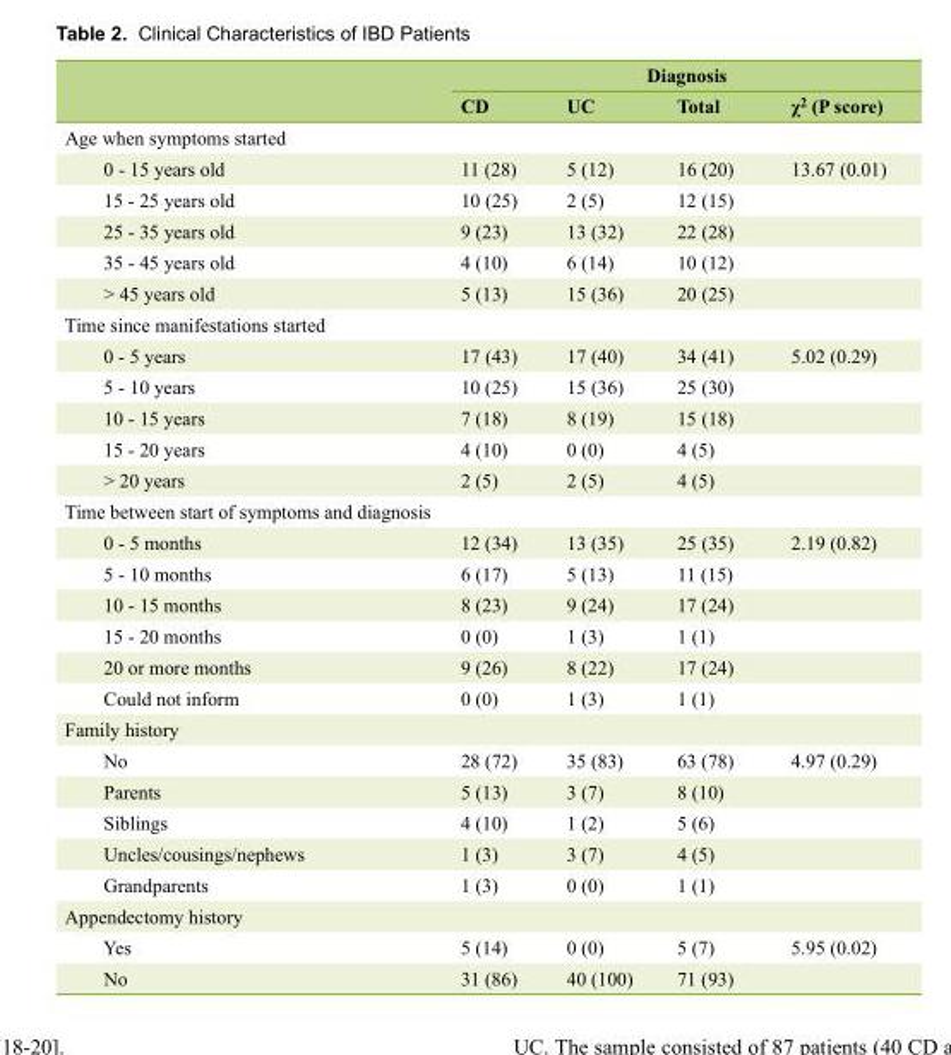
<table><thead><tr><td rowspan="2"></td><td colspan="4">Diagnosis</td></tr><tr><td>CD</td><td>UC</td><td>Total</td><td>χ<sup>2</sup> (P score)</td></tr></thead><tbody><tr><td colspan="5">Age when symptoms started</td></tr><tr><td>0 - 15 years old</td><td>11 (28)</td><td>5 (12)</td><td>16 (20)</td><td>13.67 (0.01)</td></tr><tr><td>15 - 25 years old</td><td>10 (25)</td><td>2 (5)</td><td>12 (15)</td><td></td></tr><tr><td>25 - 35 years old</td><td>9 (23)</td><td>13 (32)</td><td>22 (28)</td><td></td></tr><tr><td>35 - 45 years old</td><td>4 (10)</td><td>6 (14)</td><td>10 (12)</td><td></td></tr><tr><td>&gt; 45 years old</td><td>5 (13)</td><td>15 (36)</td><td>20 (25)</td><td></td></tr><tr><td colspan="5">Time since manifestations started</td></tr><tr><td>0 - 5 years</td><td>17 (43)</td><td>17 (40)</td><td>34 (41)</td><td>5.02 (0.29)</td></tr><tr><td>5 - 10 years</td><td>10 (25)</td><td>15 (36)</td><td>25 (30)</td><td></td></tr><tr><td>10 - 15 years</td><td>7 (18)</td><td>8 (19)</td><td>15 (18)</td><td></td></tr><tr><td>15 - 20 years</td><td>4 (10)</td><td>0 (0)</td><td>4 (5)</td><td></td></tr><tr><td>&gt; 20 years</td><td>2 (5)</td><td>2 (5)</td><td>4 (5)</td><td></td></tr><tr><td colspan="5">Time between start of symptoms and diagnosis</td></tr><tr><td>0 - 5 months</td><td>12 (34)</td><td>13 (35)</td><td>25 (35)</td><td>2.19 (0.82)</td></tr><tr><td>5 - 10 months</td><td>6 (17)</td><td>5 (13)</td><td>11 (15)</td><td></td></tr><tr><td>10 - 15 months</td><td>8 (23)</td><td>9 (24)</td><td>17 (24)</td><td></td></tr><tr><td>15 - 20 months</td><td>0 (0)</td><td>1 (3)</td><td>1 (1)</td><td></td></tr><tr><td>20 or more months</td><td>9 (26)</td><td>8 (22)</td><td>17 (24)</td><td></td></tr><tr><td>Could not inform</td><td>0 (0)</td><td>1 (3)</td><td>1 (1)</td><td></td></tr><tr><td colspan="5">Family history</td></tr><tr><td>No</td><td>28 (72)</td><td>35 (83)</td><td>63 (78)</td><td>4.97 (0.29)</td></tr><tr><td>Parents</td><td>5 (13)</td><td>3 (7)</td><td>8 (10)</td><td></td></tr><tr><td>Siblings</td><td>4 (10)</td><td>1 (2)</td><td>5 (6)</td><td></td></tr><tr><td>Uncles/cousings/nephews</td><td>1 (3)</td><td>3 (7)</td><td>4 (5)</td><td></td></tr><tr><td>Grandparents</td><td>1 (3)</td><td>0 (0)</td><td>1 (1)</td><td></td></tr><tr><td colspan="5">Appendectomy history</td></tr><tr><td>Yes</td><td>5 (14)</td><td>0 (0)</td><td>5 (7)</td><td>5.95 (0.02)</td></tr><tr><td>No</td><td>31 (86)</td><td>40 (100)</td><td>71 (93)</td><td></td></tr></tbody></table>